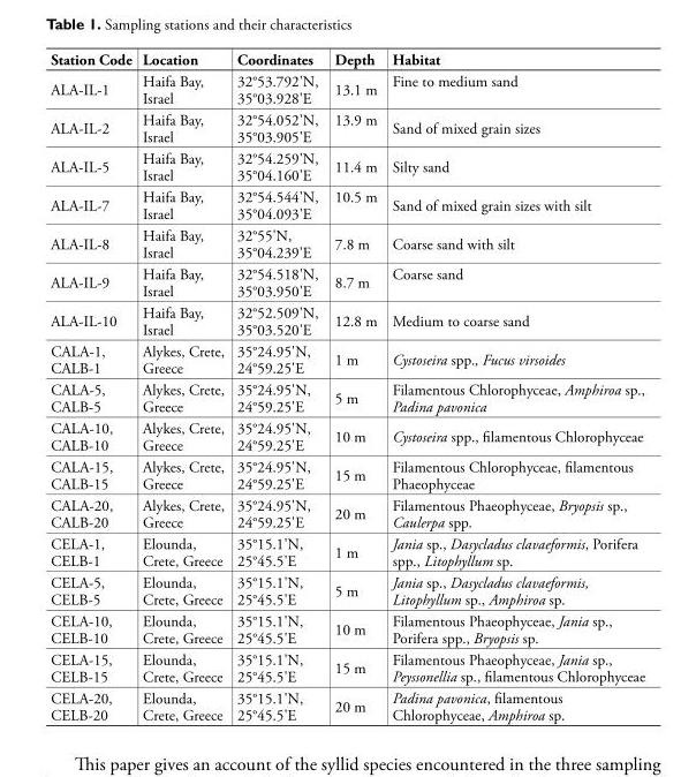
<table><tbody><tr><td>Station Code</td><td>Location</td><td>Coordinates</td><td>Depth</td><td>Habitat</td></tr><tr><td>ALA-IL-1</td><td>Haifa Bay, Israel</td><td>32°53.792&#x27;N, 35°03.928&#x27;E</td><td>13.1 m</td><td>Fine to medium sand</td></tr><tr><td>ALA-IL-2</td><td>Haifa Bay, Israel</td><td>32°54.052&#x27;N, 35°03.905&#x27;E</td><td>13.9 m</td><td>Sand of mixed grain sizes</td></tr><tr><td>ALA-IL-5</td><td>Haifa Bay, Israel</td><td>32°54.259&#x27;N, 35°04.160&#x27;E</td><td>11.4 m</td><td>Silty sand</td></tr><tr><td>ALA-IL-7</td><td>Haifa Bay, Israel</td><td>32°54.544&#x27;N, 35°04.093&#x27;E</td><td>10.5 m</td><td>Sand of mixed grain sizes with silt</td></tr><tr><td>ALA-IL-8</td><td>Haifa Bay, Israel</td><td>32°55&#x27;N, 35°04.239&#x27;E</td><td>7.8 m</td><td>Coarse sand with silt</td></tr><tr><td>ALA-IL-9</td><td>Haifa Bay, Israel</td><td>32°54.518&#x27;N, 35°03.950&#x27;E</td><td>8.7 m</td><td>Coarse sand</td></tr><tr><td>ALA-IL-10</td><td>Haifa Bay, Israel</td><td>32°52.509&#x27;N, 35°03.520&#x27;E</td><td>12.8 m</td><td>Medium to coarse sand</td></tr><tr><td>CALA-1, CALB-1</td><td>Alykes, Crete, Greece</td><td>35°24.95&#x27;N, 24°59.25&#x27;E</td><td>1 m</td><td>Cystoseira spp., Fucus virsoides</td></tr><tr><td>CALA-5, CALB-5</td><td>Alykes, Crete, Greece</td><td>35°24.95&#x27;N, 24°59.25&#x27;E</td><td>5 m</td><td>Filamentous Chlorophyceae, Amphiroa sp., Padina pavonica</td></tr><tr><td>CALA-10, CALB-10</td><td>Alykes, Crete, Greece</td><td>35°24.95&#x27;N, 24°59.25&#x27;E</td><td>10 m</td><td>Cystoseira spp., filamentous Chlorophyceae</td></tr><tr><td>CALA-15, CALB-15</td><td>Alykes, Crete, Greece</td><td>35°24.95&#x27;N, 24°59.25&#x27;E</td><td>15 m</td><td>Filamentous Chlorophyceae, filamentous Phaeophyceae</td></tr><tr><td>CALA-20, CALB-20</td><td>Alykes, Crete, Greece</td><td>35°24.95&#x27;N, 24°59.25&#x27;E</td><td>20 m</td><td>Filamentous Phaeophyceae, Bryopsis sp., Caulerpa spp.</td></tr><tr><td>CELA-1, CELB-1</td><td>Elounda, Crete, Greece</td><td>35°15.1&#x27;N, 25°45.5&#x27;E</td><td>1 m</td><td>Jania sp., Dasycladus clavaeformis, Porifera spp., Litophyllum sp.</td></tr><tr><td>CELA-5, CELB-5</td><td>Elounda, Crete, Greece</td><td>35°15.1&#x27;N, 25°45.5&#x27;E</td><td>5 m</td><td>Jania sp., Dasycladus clavaeformis, Litophyllum sp., Amphiroa sp.</td></tr><tr><td>CELA-10, CELB-10</td><td>Elounda, Crete, Greece</td><td>35°15.1&#x27;N, 25°45.5&#x27;E</td><td>10 m</td><td>Filamentous Phaeophyceae, Jania sp., Porifera spp., Bryopsis sp.</td></tr><tr><td>CELA-15, CELB-15</td><td>Elounda, Crete, Greece</td><td>35°15.1&#x27;N, 25°45.5&#x27;E</td><td>15 m</td><td>Filamentous Phaeophyceae, Jania sp., Peyssonellia sp., filamentous Chlorophyceae</td></tr><tr><td>CELA-20, CELB-20</td><td>Elounda, Crete, Greece</td><td>35°15.1&#x27;N, 25°45.5&#x27;E</td><td>20 m</td><td>Padina pavonica, filamentous Chlorophyceae, Amphiroa sp.</td></tr></tbody></table>